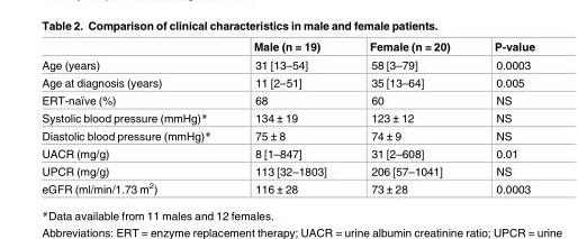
<table><thead><tr><td></td><td>Male (n = 19)</td><td>Female (n = 20)</td><td>P-value</td></tr></thead><tbody><tr><td>Age (years)</td><td>31 [13–54]</td><td>58 [3–79]</td><td>0.0003</td></tr><tr><td>Age at diagnosis (years)</td><td>11 [2–51]</td><td>35 [13–64]</td><td>0.005</td></tr><tr><td>ERT-naïve (%)</td><td>68</td><td>60</td><td>NS</td></tr><tr><td>Systolic blood pressure (mmHg)*</td><td>134 ± 19</td><td>123 ± 12</td><td>NS</td></tr><tr><td>Diastolic blood pressure (mmHg)*</td><td>75 ± 8</td><td>74 ± 9</td><td>NS</td></tr><tr><td>UACR (mg/g)</td><td>8 [1–847]</td><td>31 [2–608]</td><td>0.01</td></tr><tr><td>UPCR (mg/g)</td><td>113 [32–1803]</td><td>206 [57–1041]</td><td>NS</td></tr><tr><td>eGFR (ml/min/1.73 m<sup>2</sup>)</td><td>116 ± 28</td><td>73 ± 28</td><td>0.0003</td></tr></tbody></table>